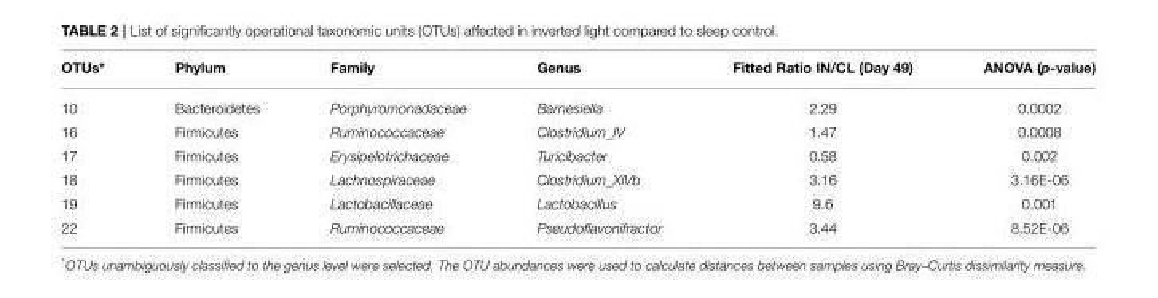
<table><thead><tr><td>OTUs*</td><td>Phylum</td><td>Family</td><td>Genus</td><td>Fitted Ratio IN/CL (Day 49)</td><td>ANOVA (p-value)</td></tr></thead><tbody><tr><td>10</td><td>Bacteroidetes</td><td>Porphyromonadaceae</td><td>Barnesiella</td><td>2.29</td><td>0.0002</td></tr><tr><td>16</td><td>Firmicutes</td><td>Ruminococcaceae</td><td>Clostridium_IV</td><td>1.47</td><td>0.0008</td></tr><tr><td>17</td><td>Firmicutes</td><td>Erysipelotrichaceae</td><td>Turicibacter</td><td>0.58</td><td>0.002</td></tr><tr><td>18</td><td>Firmicutes</td><td>Lachnospiraceae</td><td>Clostridium_XlVb</td><td>3.16</td><td>3.16E-06</td></tr><tr><td>19</td><td>Firmicutes</td><td>Lactobacillaceae</td><td>Lactobacillus</td><td>9.6</td><td>0.001</td></tr><tr><td>22</td><td>Firmicutes</td><td>Ruminococcaceae</td><td>Pseudoflavonifractor</td><td>3.44</td><td>8.52E-06</td></tr></tbody></table>